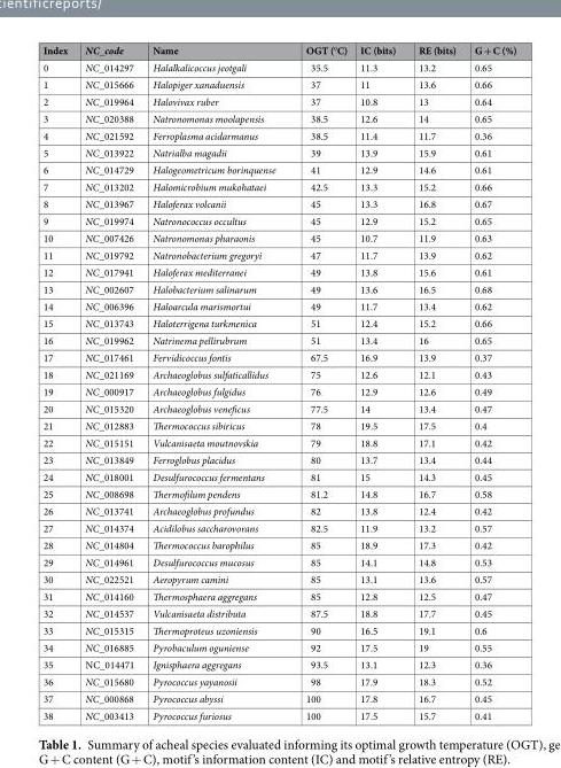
<table><thead><tr><td>Index</td><td>NC_code</td><td>Name</td><td>OGT (°C)</td><td>IC (bits)</td><td>RE (bits)</td><td>G + C (%)</td></tr></thead><tbody><tr><td>0</td><td>NC_014297</td><td>Halalkalicoccus jeotgali</td><td>35.5</td><td>11.3</td><td>13.2</td><td>0.65</td></tr><tr><td>1</td><td>NC_015666</td><td>Halopiger xanaduensis</td><td>37</td><td>11</td><td>13.6</td><td>0.66</td></tr><tr><td>2</td><td>NC_019964</td><td>Halovivax ruber</td><td>37</td><td>10.8</td><td>13</td><td>0.64</td></tr><tr><td>3</td><td>NC_020388</td><td>Natronomonas moolapensis</td><td>38.5</td><td>12.6</td><td>14</td><td>0.65</td></tr><tr><td>4</td><td>NC_021592</td><td>Ferroplasma acidarmanus</td><td>38.5</td><td>11.4</td><td>11.7</td><td>0.36</td></tr><tr><td>5</td><td>NC_013922</td><td>Natrialba magadii</td><td>39</td><td>13.9</td><td>15.9</td><td>0.61</td></tr><tr><td>6</td><td>NC_014729</td><td>Halogeometricum borinquense</td><td>41</td><td>12.9</td><td>14.6</td><td>0.61</td></tr><tr><td>7</td><td>NC_013202</td><td>Halomicrobium mukohataei</td><td>42.5</td><td>13.3</td><td>15.2</td><td>0.66</td></tr><tr><td>8</td><td>NC_013967</td><td>Haloferax volcanii</td><td>45</td><td>13.3</td><td>16.8</td><td>0.67</td></tr><tr><td>9</td><td>NC_019974</td><td>Natronococcus occultus</td><td>45</td><td>12.9</td><td>15.2</td><td>0.65</td></tr><tr><td>10</td><td>NC_007426</td><td>Natronomonas pharaonis</td><td>45</td><td>10.7</td><td>11.9</td><td>0.63</td></tr><tr><td>11</td><td>NC_019792</td><td>Natronobacterium gregoryi</td><td>47</td><td>11.7</td><td>13.9</td><td>0.62</td></tr><tr><td>12</td><td>NC_017941</td><td>Haloferax mediterranei</td><td>49</td><td>13.8</td><td>15.6</td><td>0.61</td></tr><tr><td>13</td><td>NC_002607</td><td>Halobacterium salinarum</td><td>49</td><td>13.6</td><td>16.5</td><td>0.68</td></tr><tr><td>14</td><td>NC_006396</td><td>Haloarcula marismortui</td><td>49</td><td>11.7</td><td>13.4</td><td>0.62</td></tr><tr><td>15</td><td>NC_013743</td><td>Haloterrigena turkmenica</td><td>51</td><td>12.4</td><td>15.2</td><td>0.66</td></tr><tr><td>16</td><td>NC_019962</td><td>Natrinema pellirubrum</td><td>51</td><td>13.4</td><td>16</td><td>0.65</td></tr><tr><td>17</td><td>NC_017461</td><td>Fervidicoccus fontis</td><td>67.5</td><td>16.9</td><td>13.9</td><td>0.37</td></tr><tr><td>18</td><td>NC_021169</td><td>Archaeoglobus sulfaticallidus</td><td>75</td><td>12.6</td><td>12.1</td><td>0.43</td></tr><tr><td>19</td><td>NC_000917</td><td>Archaeoglobus fulgidus</td><td>76</td><td>12.9</td><td>12.6</td><td>0.49</td></tr><tr><td>20</td><td>NC_015320</td><td>Archaeoglobus veneficus</td><td>77.5</td><td>14</td><td>13.4</td><td>0.47</td></tr><tr><td>21</td><td>NC_012883</td><td>Thermococcus sibiricus</td><td>78</td><td>19.5</td><td>17.5</td><td>0.4</td></tr><tr><td>22</td><td>NC_015151</td><td>Vulcanisaeta moutnovskia</td><td>79</td><td>18.8</td><td>17.1</td><td>0.42</td></tr><tr><td>23</td><td>NC_013849</td><td>Ferroglobus placidus</td><td>80</td><td>13.7</td><td>13.4</td><td>0.44</td></tr><tr><td>24</td><td>NC_018001</td><td>Desulfurococcus fermentans</td><td>81</td><td>15</td><td>14.3</td><td>0.45</td></tr><tr><td>25</td><td>NC_008698</td><td>Thermofilum pendens</td><td>81.2</td><td>14.8</td><td>16.7</td><td>0.58</td></tr><tr><td>26</td><td>NC_013741</td><td>Archaeoglobus profundus</td><td>82</td><td>13.8</td><td>12.4</td><td>0.42</td></tr><tr><td>27</td><td>NC_014374</td><td>Acidilobus saccharovorans</td><td>82.5</td><td>11.9</td><td>13.2</td><td>0.57</td></tr><tr><td>28</td><td>NC_014804</td><td>Thermococcus barophilus</td><td>85</td><td>18.9</td><td>17.3</td><td>0.42</td></tr><tr><td>29</td><td>NC_014961</td><td>Desulfurococcus mucosus</td><td>85</td><td>14.1</td><td>14.8</td><td>0.53</td></tr><tr><td>30</td><td>NC_022521</td><td>Aeropyrum camini</td><td>85</td><td>13.1</td><td>13.6</td><td>0.57</td></tr><tr><td>31</td><td>NC_014160</td><td>Thermosphaera aggregans</td><td>85</td><td>12.8</td><td>12.5</td><td>0.47</td></tr><tr><td>32</td><td>NC_014537</td><td>Vulcanisaeta distributa</td><td>87.5</td><td>18.8</td><td>17.7</td><td>0.45</td></tr><tr><td>33</td><td>NC_015315</td><td>Thermoproteus uzoniensis</td><td>90</td><td>16.5</td><td>19.1</td><td>0.6</td></tr><tr><td>34</td><td>NC_016885</td><td>Pyrobaculum oguniense</td><td>92</td><td>17.5</td><td>19</td><td>0.55</td></tr><tr><td>35</td><td>NC_014471</td><td>Ignisphaera aggregans</td><td>93.5</td><td>13.1</td><td>12.3</td><td>0.36</td></tr><tr><td>36</td><td>NC_015680</td><td>Pyrococcus yayanosii</td><td>98</td><td>17.9</td><td>18.3</td><td>0.52</td></tr><tr><td>37</td><td>NC_000868</td><td>Pyrococcus abyssi</td><td>100</td><td>17.8</td><td>16.7</td><td>0.45</td></tr><tr><td>38</td><td>NC_003413</td><td>Pyrococcus furiosus</td><td>100</td><td>17.5</td><td>15.7</td><td>0.41</td></tr></tbody></table>